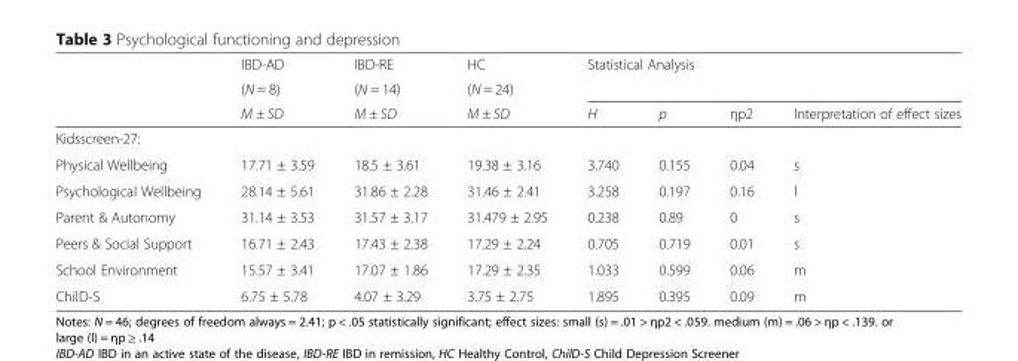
<table><thead><tr><td rowspan="3"></td><td rowspan="3">IBD-AD (N = 8) M ± SD</td><td rowspan="3">IBD-RE (N = 14) M ± SD</td><td rowspan="3">HC (N = 24) M ± SD</td><td rowspan="2" colspan="4">Statistical Analysis</td></tr><tr></tr><tr><td>H</td><td>p</td><td>ηp2</td><td>Interpretation of effect sizes</td></tr></thead><tbody><tr><td colspan="8">Kidsscreen-27:</td></tr><tr><td>Physical Wellbeing</td><td>17.71 ± 3.59</td><td>18.5 ± 3.61</td><td>19.38 ± 3.16</td><td>3.740</td><td>0.155</td><td>0.04</td><td>s</td></tr><tr><td>Psychological Wellbeing</td><td>28.14 ± 5.61</td><td>31.86 ± 2.28</td><td>31.46 ± 2.41</td><td>3.258</td><td>0.197</td><td>0.16</td><td>l</td></tr><tr><td>Parent &amp; Autonomy</td><td>31.14 ± 3.53</td><td>31.57 ± 3.17</td><td>31.479 ± 2.95</td><td>0.238</td><td>0.89</td><td>0</td><td>s</td></tr><tr><td>Peers &amp; Social Support</td><td>16.71 ± 2.43</td><td>17.43 ± 2.38</td><td>17.29 ± 2.24</td><td>0.705</td><td>0.719</td><td>0.01</td><td>s</td></tr><tr><td>School Environment</td><td>15.57 ± 3.41</td><td>17.07 ± 1.86</td><td>17.29 ± 2.35</td><td>1.033</td><td>0.599</td><td>0.06</td><td>m</td></tr><tr><td>ChilD-S</td><td>6.75 ± 5.78</td><td>4.07 ± 3.29</td><td>3.75 ± 2.75</td><td>1.895</td><td>0.395</td><td>0.09</td><td>m</td></tr></tbody></table>